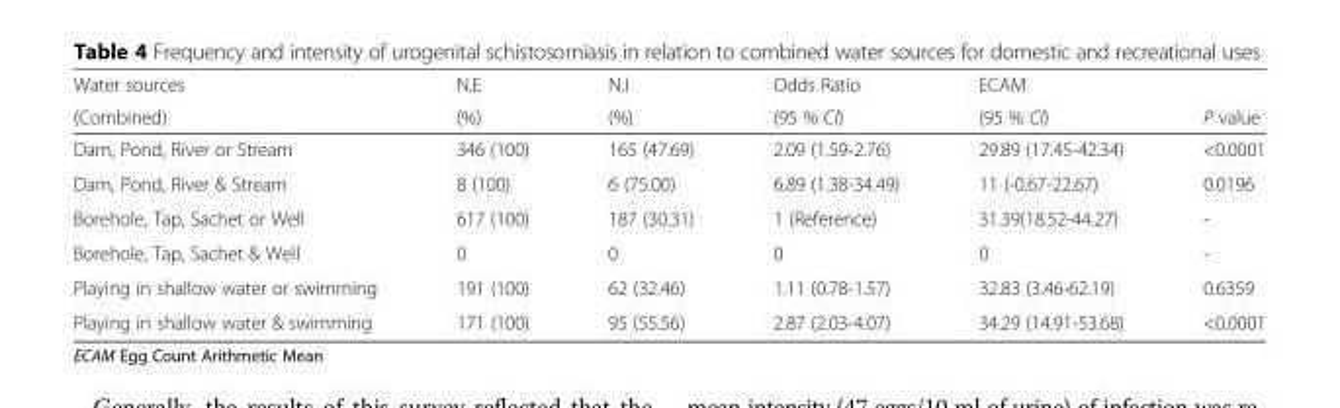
<table><thead><tr><td rowspan="2">Water sources (Combined)</td><td rowspan="2">N.E (%)</td><td rowspan="2">N.I (%)</td><td rowspan="2">Odds Ratio (95 % CI)</td><td rowspan="2">ECAM (95 % CI)</td><td rowspan="2">P value</td></tr><tr></tr></thead><tbody><tr><td>Dam, Pond, River or Stream</td><td>346 (100)</td><td>165 (47.69)</td><td>2.09 (1.59-2.76)</td><td>29.89 (17.45-42.34)</td><td>&lt;0.0001</td></tr><tr><td>Dam, Pond, River &amp; Stream</td><td>8 (100)</td><td>6 (75.00)</td><td>6.89 (1.38-34.49)</td><td>11 (-0.67-22.67)</td><td>0.0196</td></tr><tr><td>Borehole, Tap, Sachet or Well</td><td>617 (100)</td><td>187 (30.31)</td><td>1 (Reference)</td><td>31.39(18.52-44.27)</td><td>-</td></tr><tr><td>Borehole, Tap, Sachet &amp; Well</td><td>0</td><td>0</td><td>0</td><td>0</td><td>-</td></tr><tr><td>Playing in shallow water or swimming</td><td>191 (100)</td><td>62 (32.46)</td><td>1.11 (0.78-1.57)</td><td>32.83 (3.46-62.19)</td><td>0.6359</td></tr><tr><td>Playing in shallow water &amp; swimming</td><td>171 (100)</td><td>95 (55.56)</td><td>2.87 (2.03-4.07)</td><td>34.29 (14.91-53.68)</td><td>&lt;0.0001</td></tr></tbody></table>